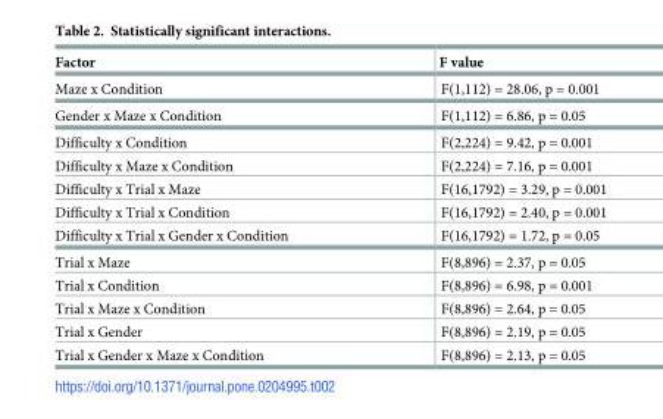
<table><thead><tr><td>Factor</td><td>F value</td></tr></thead><tbody><tr><td>Maze x Condition</td><td>F(1,112) = 28.06, p = 0.001</td></tr><tr><td>Gender x Maze x Condition</td><td>F(1,112) = 6.86, p = 0.05</td></tr><tr><td>Difficulty x Condition</td><td>F(2,224) = 9.42, p = 0.001</td></tr><tr><td>Difficulty x Maze x Condition</td><td>F(2,224) = 7.16, p = 0.001</td></tr><tr><td>Difficulty x Trial x Maze</td><td>F(16,1792) = 3.29, p = 0.001</td></tr><tr><td>Difficulty x Trial x Condition</td><td>F(16,1792) = 2.40, p = 0.001</td></tr><tr><td>Difficulty x Trial x Gender x Condition</td><td>F(16,1792) = 1.72, p = 0.05</td></tr><tr><td>Trial x Maze</td><td>F(8,896) = 2.37, p = 0.05</td></tr><tr><td>Trial x Condition</td><td>F(8,896) = 6.98, p = 0.001</td></tr><tr><td>Trial x Maze x Condition</td><td>F(8,896) = 2.64, p = 0.05</td></tr><tr><td>Trial x Gender</td><td>F(8,896) = 2.19, p = 0.05</td></tr><tr><td>Trial x Gender x Maze x Condition</td><td>F(8,896) = 2.13, p = 0.05</td></tr></tbody></table>